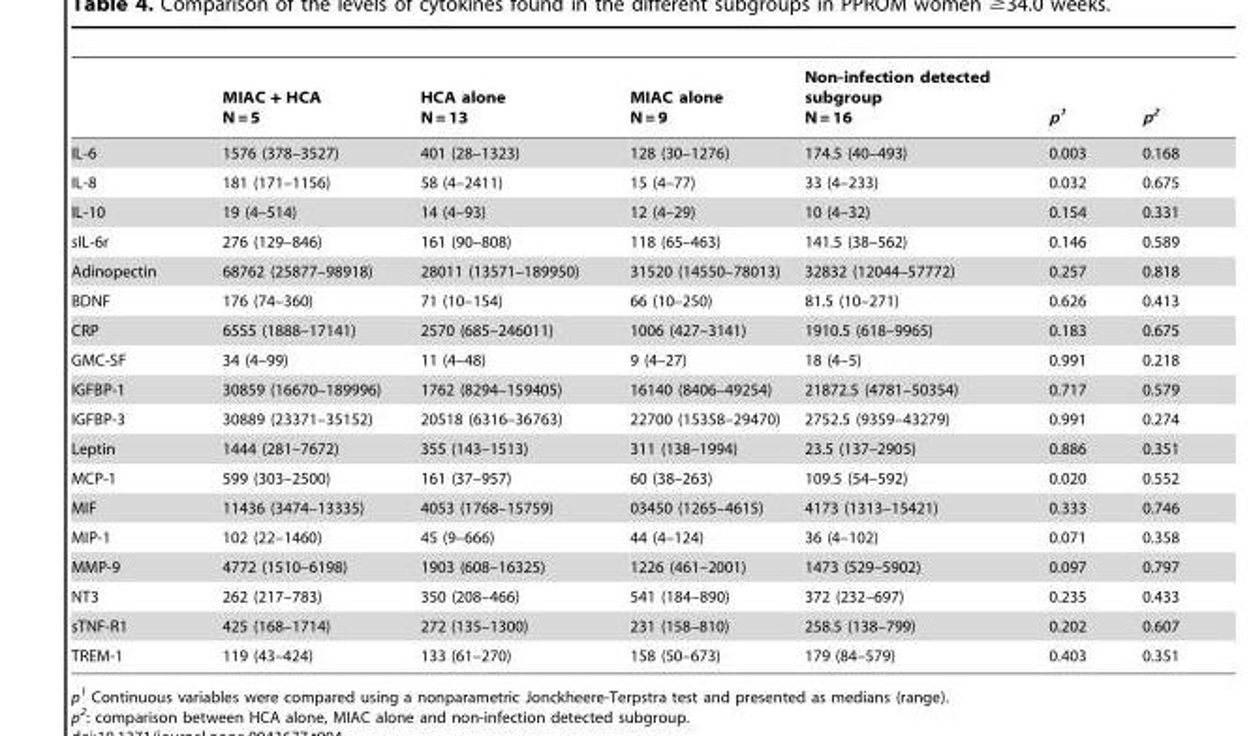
<table><thead><tr><td></td><td>MIAC + HCA N = 5</td><td>HCA alone N = 13</td><td>MIAC alone N = 9</td><td>Non-infection detected subgroup N = 16</td><td>p<sup>1</sup></td><td>p<sup>2</sup></td></tr></thead><tbody><tr><td>IL-6</td><td>1576 (378–3527)</td><td>401 (28–1323)</td><td>128 (30–1276)</td><td>174.5 (40–493)</td><td>0.003</td><td>0.168</td></tr><tr><td>IL-8</td><td>181 (171–1156)</td><td>58 (4–2411)</td><td>15 (4–77)</td><td>33 (4–233)</td><td>0.032</td><td>0.675</td></tr><tr><td>IL-10</td><td>19 (4–514)</td><td>14 (4–93)</td><td>12 (4–29)</td><td>10 (4–32)</td><td>0.154</td><td>0.331</td></tr><tr><td>sIL-6r</td><td>276 (129–846)</td><td>161 (90–808)</td><td>118 (65–463)</td><td>141.5 (38–562)</td><td>0.146</td><td>0.589</td></tr><tr><td>Adinopectin</td><td>68762 (25877–98918)</td><td>28011 (13571–189950)</td><td>31520 (14550–78013)</td><td>32832 (12044–57772)</td><td>0.257</td><td>0.818</td></tr><tr><td>BDNF</td><td>176 (74–360)</td><td>71 (10–154)</td><td>66 (10–250)</td><td>81.5 (10–271)</td><td>0.626</td><td>0.413</td></tr><tr><td>CRP</td><td>6555 (1888–17141)</td><td>2570 (685–246011)</td><td>1006 (427–3141)</td><td>1910.5 (618–9965)</td><td>0.183</td><td>0.675</td></tr><tr><td>GMC-SF</td><td>34 (4–99)</td><td>11 (4–48)</td><td>9 (4–27)</td><td>18 (4–5)</td><td>0.991</td><td>0.218</td></tr><tr><td>IGFBP-1</td><td>30859 (16670–189996)</td><td>1762 (8294–159405)</td><td>16140 (8406–49254)</td><td>21872.5 (4781–50354)</td><td>0.717</td><td>0.579</td></tr><tr><td>IGFBP-3</td><td>30889 (23371–35152)</td><td>20518 (6316–36763)</td><td>22700 (15358–29470)</td><td>2752.5 (9359–43279)</td><td>0.991</td><td>0.274</td></tr><tr><td>Leptin</td><td>1444 (281–7672)</td><td>355 (143–1513)</td><td>311 (138–1994)</td><td>23.5 (137–2905)</td><td>0.886</td><td>0.351</td></tr><tr><td>MCP-1</td><td>599 (303–2500)</td><td>161 (37–957)</td><td>60 (38–263)</td><td>109.5 (54–592)</td><td>0.020</td><td>0.552</td></tr><tr><td>MIF</td><td>11436 (3474–13335)</td><td>4053 (1768–15759)</td><td>03450 (1265–4615)</td><td>4173 (1313–15421)</td><td>0.333</td><td>0.746</td></tr><tr><td>MIP-1</td><td>102 (22–1460)</td><td>45 (9–666)</td><td>44 (4–124)</td><td>36 (4–102)</td><td>0.071</td><td>0.358</td></tr><tr><td>MMP-9</td><td>4772 (1510–6198)</td><td>1903 (608–16325)</td><td>1226 (461–2001)</td><td>1473 (529–5902)</td><td>0.097</td><td>0.797</td></tr><tr><td>NT3</td><td>262 (217–783)</td><td>350 (208–466)</td><td>541 (184–890)</td><td>372 (232–697)</td><td>0.235</td><td>0.433</td></tr><tr><td>sTNF-R1</td><td>425 (168–1714)</td><td>272 (135–1300)</td><td>231 (158–810)</td><td>258.5 (138–799)</td><td>0.202</td><td>0.607</td></tr><tr><td>TREM-1</td><td>119 (43–424)</td><td>133 (61–270)</td><td>158 (50–673)</td><td>179 (84–579)</td><td>0.403</td><td>0.351</td></tr></tbody></table>